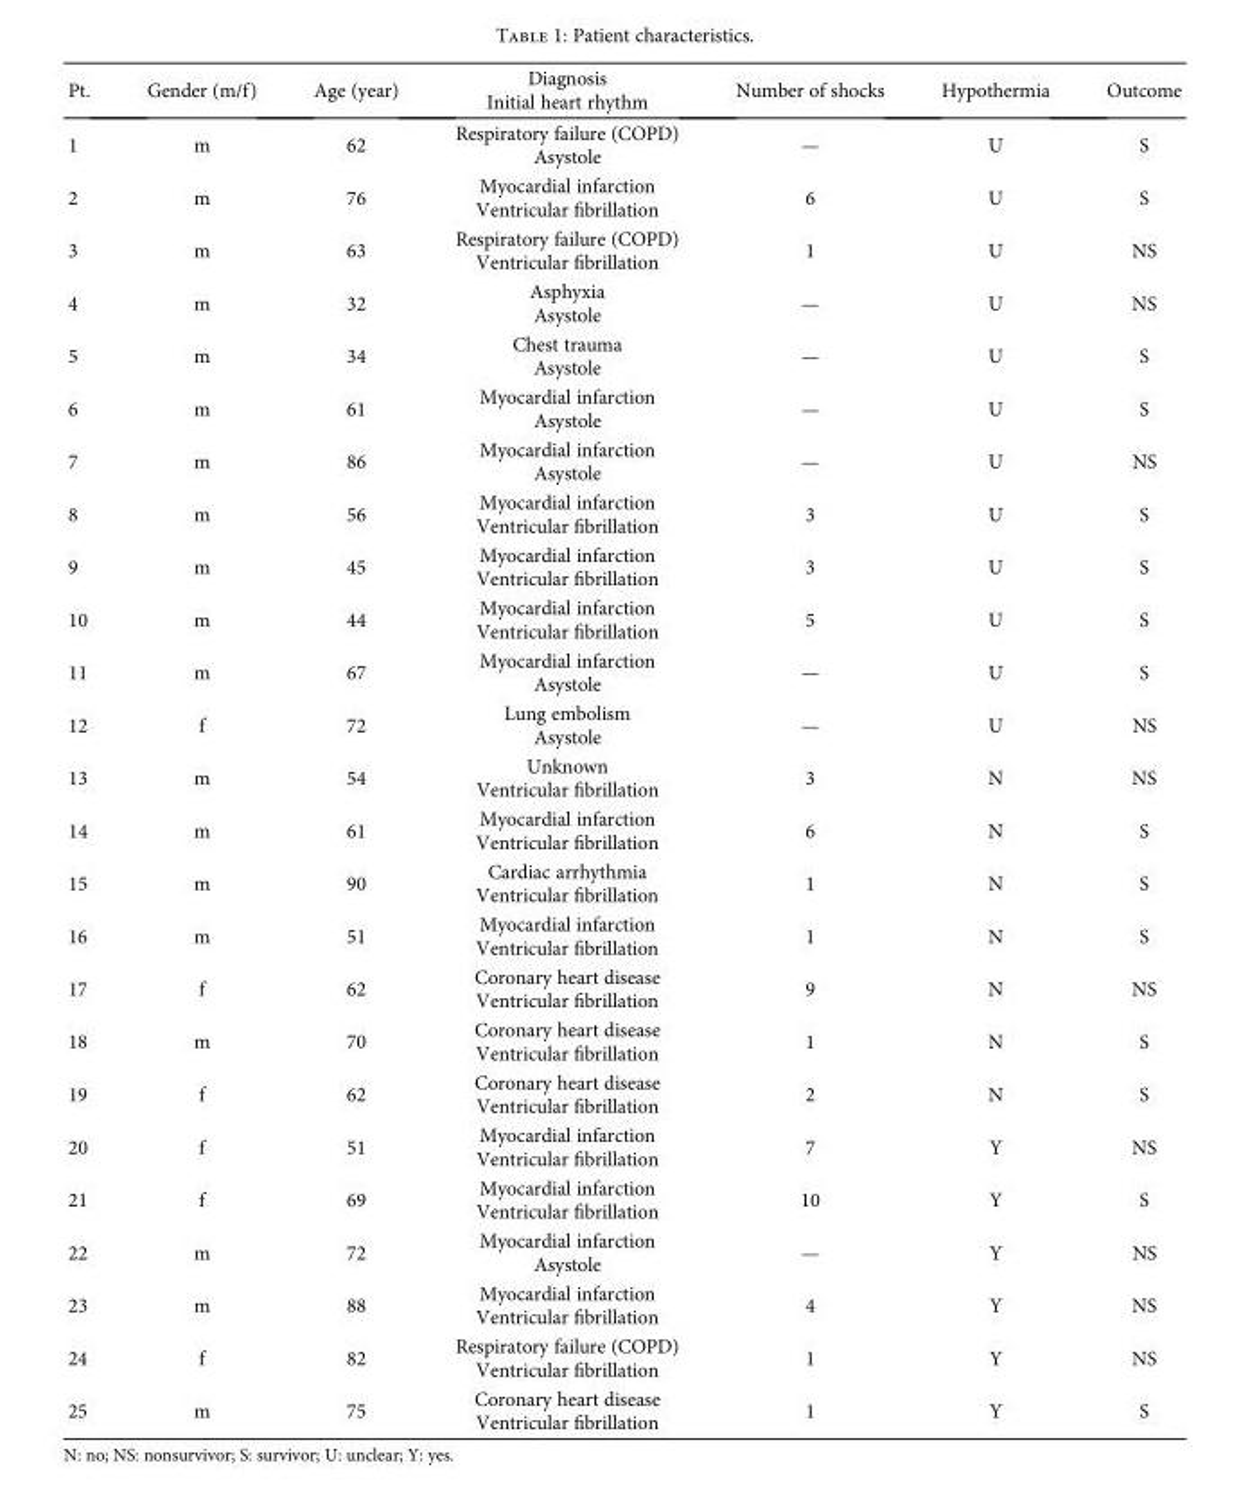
<table><thead><tr><td>Pt.</td><td>Gender (m/f)</td><td>Age (year)</td><td>Diagnosis Initial heart rhythm</td><td>Number of shocks</td><td>Hypothermia</td><td>Outcome</td></tr></thead><tbody><tr><td>1</td><td>m</td><td>62</td><td>Respiratory failure (COPD) Asystole</td><td>—</td><td>U</td><td>S</td></tr><tr><td>2</td><td>m</td><td>76</td><td>Myocardial infarction Ventricular fibrillation</td><td>6</td><td>U</td><td>S</td></tr><tr><td>3</td><td>m</td><td>63</td><td>Respiratory failure (COPD) Ventricular fibrillation</td><td>1</td><td>U</td><td>NS</td></tr><tr><td>4</td><td>m</td><td>32</td><td>Asphyxia Asystole</td><td>—</td><td>U</td><td>NS</td></tr><tr><td>5</td><td>m</td><td>34</td><td>Chest trauma Asystole</td><td>—</td><td>U</td><td>S</td></tr><tr><td>6</td><td>m</td><td>61</td><td>Myocardial infarction Asystole</td><td>—</td><td>U</td><td>S</td></tr><tr><td>7</td><td>m</td><td>86</td><td>Myocardial infarction Asystole</td><td>—</td><td>U</td><td>NS</td></tr><tr><td>8</td><td>m</td><td>56</td><td>Myocardial infarction Ventricular fibrillation</td><td>3</td><td>U</td><td>S</td></tr><tr><td>9</td><td>m</td><td>45</td><td>Myocardial infarction Ventricular fibrillation</td><td>3</td><td>U</td><td>S</td></tr><tr><td>10</td><td>m</td><td>44</td><td>Myocardial infarction Ventricular fibrillation</td><td>5</td><td>U</td><td>S</td></tr><tr><td>11</td><td>m</td><td>67</td><td>Myocardial infarction Asystole</td><td>—</td><td>U</td><td>S</td></tr><tr><td>12</td><td>f</td><td>72</td><td>Lung embolism Asystole</td><td>—</td><td>U</td><td>NS</td></tr><tr><td>13</td><td>m</td><td>54</td><td>Unknown Ventricular fibrillation</td><td>3</td><td>N</td><td>NS</td></tr><tr><td>14</td><td>m</td><td>61</td><td>Myocardial infarction Ventricular fibrillation</td><td>6</td><td>N</td><td>S</td></tr><tr><td>15</td><td>m</td><td>90</td><td>Cardiac arrhythmia Ventricular fibrillation</td><td>1</td><td>N</td><td>S</td></tr><tr><td>16</td><td>m</td><td>51</td><td>Myocardial infarction Ventricular fibrillation</td><td>1</td><td>N</td><td>S</td></tr><tr><td>17</td><td>f</td><td>62</td><td>Coronary heart disease Ventricular fibrillation</td><td>9</td><td>N</td><td>NS</td></tr><tr><td>18</td><td>m</td><td>70</td><td>Coronary heart disease Ventricular fibrillation</td><td>1</td><td>N</td><td>S</td></tr><tr><td>19</td><td>f</td><td>62</td><td>Coronary heart disease Ventricular fibrillation</td><td>2</td><td>N</td><td>S</td></tr><tr><td>20</td><td>f</td><td>51</td><td>Myocardial infarction Ventricular fibrillation</td><td>7</td><td>Y</td><td>NS</td></tr><tr><td>21</td><td>f</td><td>69</td><td>Myocardial infarction Ventricular fibrillation</td><td>10</td><td>Y</td><td>S</td></tr><tr><td>22</td><td>m</td><td>72</td><td>Myocardial infarction Asystole</td><td>—</td><td>Y</td><td>NS</td></tr><tr><td>23</td><td>m</td><td>88</td><td>Myocardial infarction Ventricular fibrillation</td><td>4</td><td>Y</td><td>NS</td></tr><tr><td>24</td><td>f</td><td>82</td><td>Respiratory failure (COPD) Ventricular fibrillation</td><td>1</td><td>Y</td><td>NS</td></tr><tr><td>25</td><td>m</td><td>75</td><td>Coronary heart disease Ventricular fibrillation</td><td>1</td><td>Y</td><td>S</td></tr></tbody></table>